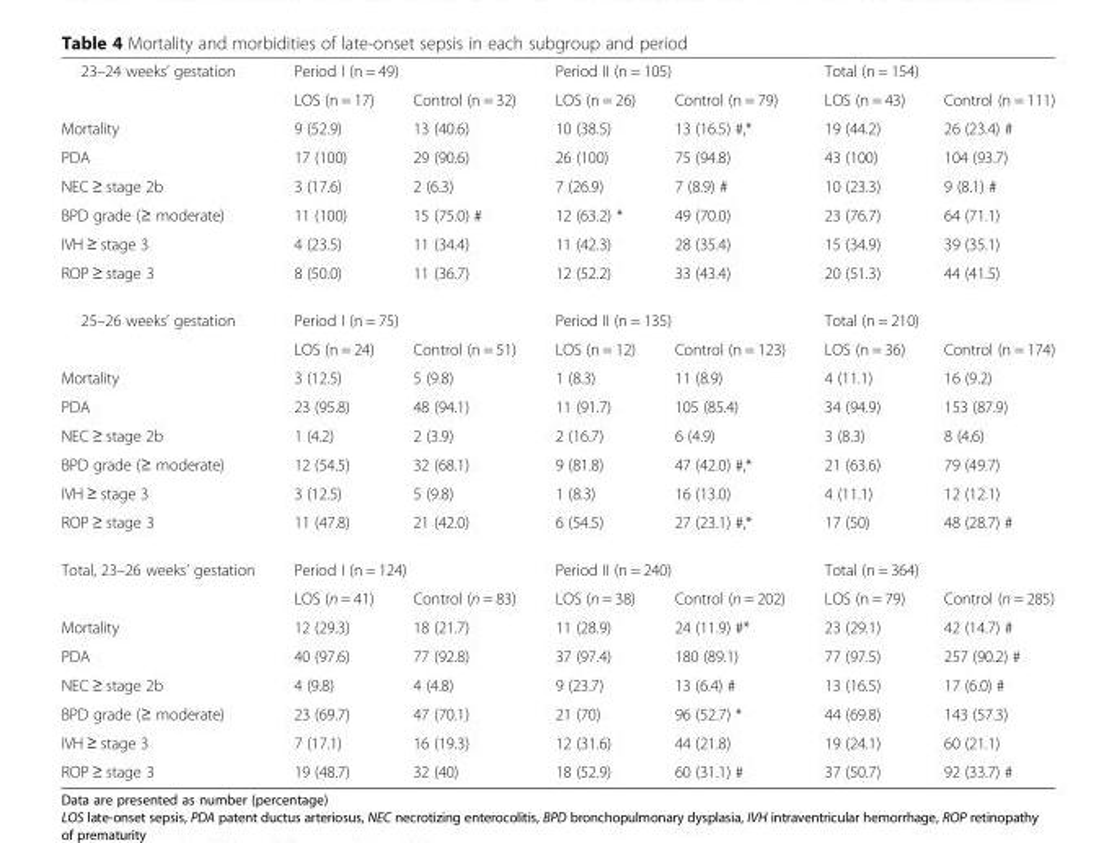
<table><tbody><tr><td rowspan="2">23–24 weeks’ gestation</td><td colspan="2">Period I (n = 49)</td><td colspan="2">Period II (n = 105)</td><td colspan="2">Total (n = 154)</td></tr><tr><td>LOS (n = 17)</td><td>Control (n = 32)</td><td>LOS (n = 26)</td><td>Control (n = 79)</td><td>LOS (n = 43)</td><td>Control (n = 111)</td></tr><tr><td>Mortality</td><td>9 (52.9)</td><td>13 (40.6)</td><td>10 (38.5)</td><td>13 (16.5) #,*</td><td>19 (44.2)</td><td>26 (23.4) #</td></tr><tr><td>PDA</td><td>17 (100)</td><td>29 (90.6)</td><td>26 (100)</td><td>75 (94.8)</td><td>43 (100)</td><td>104 (93.7)</td></tr><tr><td>NEC ≥ stage 2b</td><td>3 (17.6)</td><td>2 (6.3)</td><td>7 (26.9)</td><td>7 (8.9) #</td><td>10 (23.3)</td><td>9 (8.1) #</td></tr><tr><td>BPD grade (≥ moderate)</td><td>11 (100)</td><td>15 (75.0) #</td><td>12 (63.2) *</td><td>49 (70.0)</td><td>23 (76.7)</td><td>64 (71.1)</td></tr><tr><td>IVH ≥ stage 3</td><td>4 (23.5)</td><td>11 (34.4)</td><td>11 (42.3)</td><td>28 (35.4)</td><td>15 (34.9)</td><td>39 (35.1)</td></tr><tr><td>ROP ≥ stage 3</td><td>8 (50.0)</td><td>11 (36.7)</td><td>12 (52.2)</td><td>33 (43.4)</td><td>20 (51.3)</td><td>44 (41.5)</td></tr><tr><td rowspan="2">25–26 weeks’ gestation</td><td colspan="2">Period I (n = 75)</td><td colspan="2">Period II (n = 135)</td><td colspan="2">Total (n = 210)</td></tr><tr><td>LOS (n = 24)</td><td>Control (n = 51)</td><td>LOS (n = 12)</td><td>Control (n = 123)</td><td>LOS (n = 36)</td><td>Control (n = 174)</td></tr><tr><td>Mortality</td><td>3 (12.5)</td><td>5 (9.8)</td><td>1 (8.3)</td><td>11 (8.9)</td><td>4 (11.1)</td><td>16 (9.2)</td></tr><tr><td>PDA</td><td>23 (95.8)</td><td>48 (94.1)</td><td>11 (91.7)</td><td>105 (85.4)</td><td>34 (94.9)</td><td>153 (87.9)</td></tr><tr><td>NEC ≥ stage 2b</td><td>1 (4.2)</td><td>2 (3.9)</td><td>2 (16.7)</td><td>6 (4.9)</td><td>3 (8.3)</td><td>8 (4.6)</td></tr><tr><td>BPD grade (≥ moderate)</td><td>12 (54.5)</td><td>32 (68.1)</td><td>9 (81.8)</td><td>47 (42.0) #,*</td><td>21 (63.6)</td><td>79 (49.7)</td></tr><tr><td>IVH ≥ stage 3</td><td>3 (12.5)</td><td>5 (9.8)</td><td>1 (8.3)</td><td>16 (13.0)</td><td>4 (11.1)</td><td>12 (12.1)</td></tr><tr><td>ROP ≥ stage 3</td><td>11 (47.8)</td><td>21 (42.0)</td><td>6 (54.5)</td><td>27 (23.1) #,*</td><td>17 (50)</td><td>48 (28.7) #</td></tr><tr><td rowspan="2">Total, 23–26 weeks’ gestation</td><td colspan="2">Period I (n = 124)</td><td colspan="2">Period II (n = 240)</td><td colspan="2">Total (n = 364)</td></tr><tr><td>LOS (n = 41)</td><td>Control (n = 83)</td><td>LOS (n = 38)</td><td>Control (n = 202)</td><td>LOS (n = 79)</td><td>Control (n = 285)</td></tr><tr><td>Mortality</td><td>12 (29.3)</td><td>18 (21.7)</td><td>11 (28.9)</td><td>24 (11.9) #*</td><td>23 (29.1)</td><td>42 (14.7) #</td></tr><tr><td>PDA</td><td>40 (97.6)</td><td>77 (92.8)</td><td>37 (97.4)</td><td>180 (89.1)</td><td>77 (97.5)</td><td>257 (90.2) #</td></tr><tr><td>NEC ≥ stage 2b</td><td>4 (9.8)</td><td>4 (4.8)</td><td>9 (23.7)</td><td>13 (6.4) #</td><td>13 (16.5)</td><td>17 (6.0) #</td></tr><tr><td>BPD grade (≥ moderate)</td><td>23 (69.7)</td><td>47 (70.1)</td><td>21 (70)</td><td>96 (52.7) *</td><td>44 (69.8)</td><td>143 (57.3)</td></tr><tr><td>IVH ≥ stage 3</td><td>7 (17.1)</td><td>16 (19.3)</td><td>12 (31.6)</td><td>44 (21.8)</td><td>19 (24.1)</td><td>60 (21.1)</td></tr><tr><td>ROP ≥ stage 3</td><td>19 (48.7)</td><td>32 (40)</td><td>18 (52.9)</td><td>60 (31.1) #</td><td>37 (50.7)</td><td>92 (33.7) #</td></tr></tbody></table>